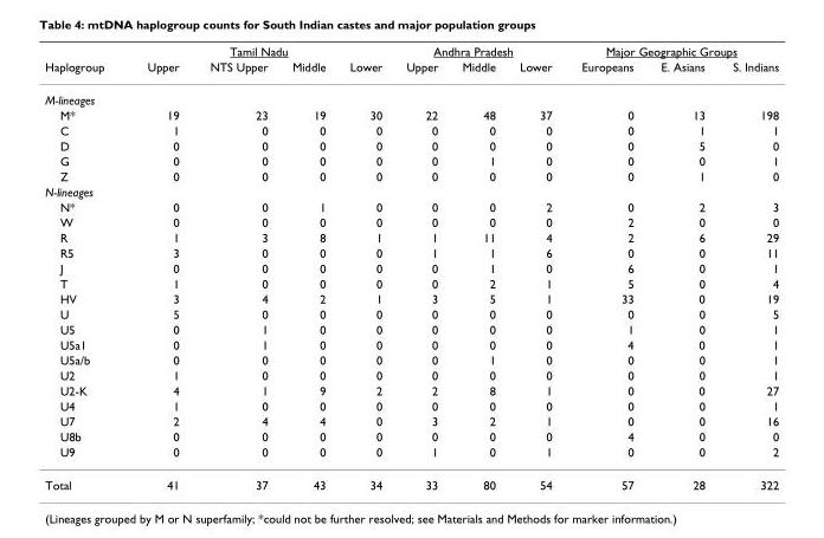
<table><thead><tr><td rowspan="2">Haplogroup</td><td colspan="4">Tamil Nadu</td><td colspan="3">Andhra Pradesh</td><td colspan="3">Major Geographic Groups</td></tr><tr><td>Upper</td><td>NTS Upper</td><td>Middle</td><td>Lower</td><td>Upper</td><td>Middle</td><td>Lower</td><td>Europeans</td><td>E. Asians</td><td>S. Indians</td></tr></thead><tbody><tr><td colspan="11">M-lineages</td></tr><tr><td>M*</td><td>19</td><td>23</td><td>19</td><td>30</td><td>22</td><td>48</td><td>37</td><td>0</td><td>13</td><td>198</td></tr><tr><td>C</td><td>1</td><td>0</td><td>0</td><td>0</td><td>0</td><td>0</td><td>0</td><td>0</td><td>1</td><td>1</td></tr><tr><td>D</td><td>0</td><td>0</td><td>0</td><td>0</td><td>0</td><td>0</td><td>0</td><td>0</td><td>5</td><td>0</td></tr><tr><td>G</td><td>0</td><td>0</td><td>0</td><td>0</td><td>0</td><td>1</td><td>0</td><td>0</td><td>0</td><td>1</td></tr><tr><td>Z</td><td>0</td><td>0</td><td>0</td><td>0</td><td>0</td><td>0</td><td>0</td><td>0</td><td>1</td><td>0</td></tr><tr><td colspan="11">N-lineages</td></tr><tr><td>N*</td><td>0</td><td>0</td><td>1</td><td>0</td><td>0</td><td>0</td><td>2</td><td>0</td><td>2</td><td>3</td></tr><tr><td>W</td><td>0</td><td>0</td><td>0</td><td>0</td><td>0</td><td>0</td><td>0</td><td>2</td><td>0</td><td>0</td></tr><tr><td>R</td><td>1</td><td>3</td><td>8</td><td>1</td><td>1</td><td>11</td><td>4</td><td>2</td><td>6</td><td>29</td></tr><tr><td>R5</td><td>3</td><td>0</td><td>0</td><td>0</td><td>1</td><td>1</td><td>6</td><td>0</td><td>0</td><td>11</td></tr><tr><td>J</td><td>0</td><td>0</td><td>0</td><td>0</td><td>0</td><td>1</td><td>0</td><td>6</td><td>0</td><td>1</td></tr><tr><td>T</td><td>1</td><td>0</td><td>0</td><td>0</td><td>0</td><td>2</td><td>1</td><td>5</td><td>0</td><td>4</td></tr><tr><td>HV</td><td>3</td><td>4</td><td>2</td><td>1</td><td>3</td><td>5</td><td>1</td><td>33</td><td>0</td><td>19</td></tr><tr><td>U</td><td>5</td><td>0</td><td>0</td><td>0</td><td>0</td><td>0</td><td>0</td><td>0</td><td>0</td><td>5</td></tr><tr><td>U5</td><td>0</td><td>1</td><td>0</td><td>0</td><td>0</td><td>0</td><td>0</td><td>1</td><td>0</td><td>1</td></tr><tr><td>U5a1</td><td>0</td><td>1</td><td>0</td><td>0</td><td>0</td><td>0</td><td>0</td><td>4</td><td>0</td><td>1</td></tr><tr><td>U5a/b</td><td>0</td><td>0</td><td>0</td><td>0</td><td>0</td><td>1</td><td>0</td><td>0</td><td>0</td><td>1</td></tr><tr><td>U2</td><td>1</td><td>0</td><td>0</td><td>0</td><td>0</td><td>0</td><td>0</td><td>0</td><td>0</td><td>1</td></tr><tr><td>U2-K</td><td>4</td><td>1</td><td>9</td><td>2</td><td>2</td><td>8</td><td>1</td><td>0</td><td>0</td><td>27</td></tr><tr><td>U4</td><td>1</td><td>0</td><td>0</td><td>0</td><td>0</td><td>0</td><td>0</td><td>0</td><td>0</td><td>1</td></tr><tr><td>U7</td><td>2</td><td>4</td><td>4</td><td>0</td><td>3</td><td>2</td><td>1</td><td>0</td><td>0</td><td>16</td></tr><tr><td>U8b</td><td>0</td><td>0</td><td>0</td><td>0</td><td>0</td><td>0</td><td>0</td><td>4</td><td>0</td><td>0</td></tr><tr><td>U9</td><td>0</td><td>0</td><td>0</td><td>0</td><td>1</td><td>0</td><td>1</td><td>0</td><td>0</td><td>2</td></tr><tr><td>Total</td><td>41</td><td>37</td><td>43</td><td>34</td><td>33</td><td>80</td><td>54</td><td>57</td><td>28</td><td>322</td></tr></tbody></table>